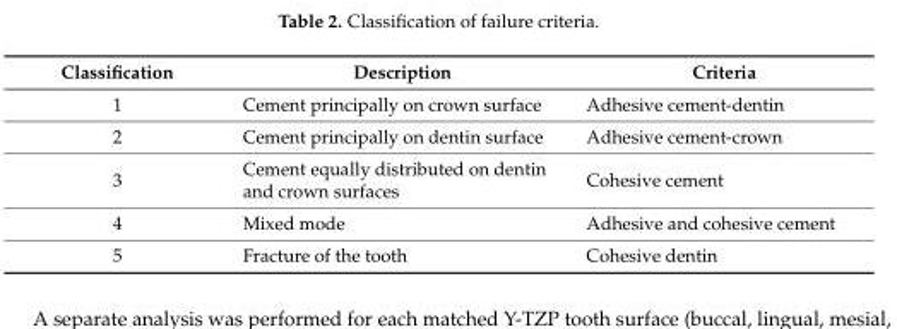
<table><thead><tr><td>Classification</td><td>Description</td><td>Criteria</td></tr></thead><tbody><tr><td>1</td><td>Cement principally on crown surface</td><td>Adhesive cement-dentin</td></tr><tr><td>2</td><td>Cement principally on dentin surface</td><td>Adhesive cement-crown</td></tr><tr><td>3</td><td>Cement equally distributed on dentin and crown surfaces</td><td>Cohesive cement</td></tr><tr><td>4</td><td>Mixed mode</td><td>Adhesive and cohesive cement</td></tr><tr><td>5</td><td>Fracture of the tooth</td><td>Cohesive dentin</td></tr></tbody></table>